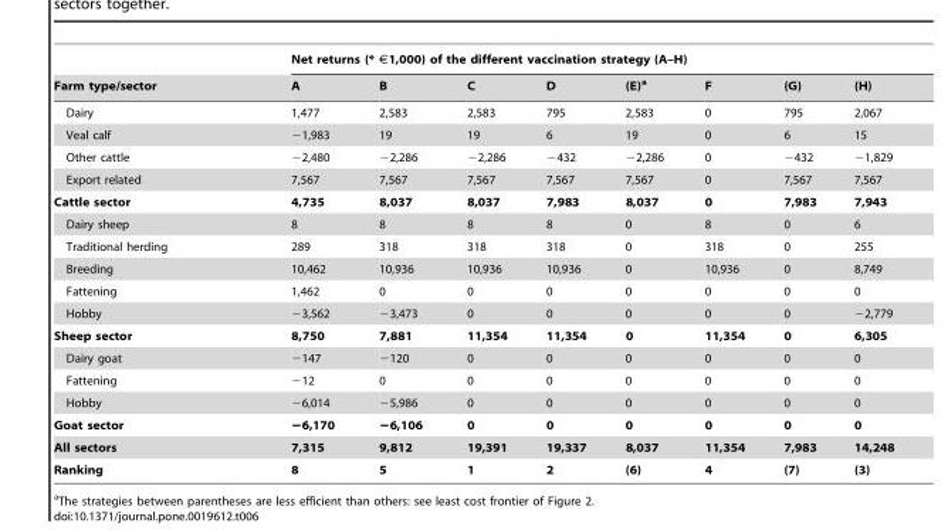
<table><thead><tr><td rowspan="2">Farm type/sector</td><td colspan="8">Net returns (* €1,000) of the different vaccination strategy (A–H)</td></tr><tr><td>A</td><td>B</td><td>C</td><td>D</td><td>(E)<sup>a</sup></td><td>F</td><td>(G)</td><td>(H)</td></tr></thead><tbody><tr><td>Dairy</td><td>1,477</td><td>2,583</td><td>2,583</td><td>795</td><td>2,583</td><td>0</td><td>795</td><td>2,067</td></tr><tr><td>Veal calf</td><td>−1,983</td><td>19</td><td>19</td><td>6</td><td>19</td><td>0</td><td>6</td><td>15</td></tr><tr><td>Other cattle</td><td>−2,480</td><td>−2,286</td><td>−2,286</td><td>−432</td><td>−2,286</td><td>0</td><td>−432</td><td>−1,829</td></tr><tr><td>Export related</td><td>7,567</td><td>7,567</td><td>7,567</td><td>7,567</td><td>7,567</td><td>0</td><td>7,567</td><td>7,567</td></tr><tr><td>Cattle sector</td><td>4,735</td><td>8,037</td><td>8,037</td><td>7,983</td><td>8,037</td><td>0</td><td>7,983</td><td>7,943</td></tr><tr><td>Dairy sheep</td><td>8</td><td>8</td><td>8</td><td>8</td><td>0</td><td>8</td><td>0</td><td>6</td></tr><tr><td>Traditional herding</td><td>289</td><td>318</td><td>318</td><td>318</td><td>0</td><td>318</td><td>0</td><td>255</td></tr><tr><td>Breeding</td><td>10,462</td><td>10,936</td><td>10,936</td><td>10,936</td><td>0</td><td>10,936</td><td>0</td><td>8,749</td></tr><tr><td>Fattening</td><td>1,462</td><td>0</td><td>0</td><td>0</td><td>0</td><td>0</td><td>0</td><td>0</td></tr><tr><td>Hobby</td><td>−3,562</td><td>−3,473</td><td>0</td><td>0</td><td>0</td><td>0</td><td>0</td><td>−2,779</td></tr><tr><td>Sheep sector</td><td>8,750</td><td>7,881</td><td>11,354</td><td>11,354</td><td>0</td><td>11,354</td><td>0</td><td>6,305</td></tr><tr><td>Dairy goat</td><td>−147</td><td>−120</td><td>0</td><td>0</td><td>0</td><td>0</td><td>0</td><td>0</td></tr><tr><td>Fattening</td><td>−12</td><td>0</td><td>0</td><td>0</td><td>0</td><td>0</td><td>0</td><td>0</td></tr><tr><td>Hobby</td><td>−6,014</td><td>−5,986</td><td>0</td><td>0</td><td>0</td><td>0</td><td>0</td><td>0</td></tr><tr><td>Goat sector</td><td>−6,170</td><td>−6,106</td><td>0</td><td>0</td><td>0</td><td>0</td><td>0</td><td>0</td></tr><tr><td>All sectors</td><td>7,315</td><td>9,812</td><td>19,391</td><td>19,337</td><td>8,037</td><td>11,354</td><td>7,983</td><td>14,248</td></tr><tr><td>Ranking</td><td>8</td><td>5</td><td>1</td><td>2</td><td>(6)</td><td>4</td><td>(7)</td><td>(3)</td></tr></tbody></table>